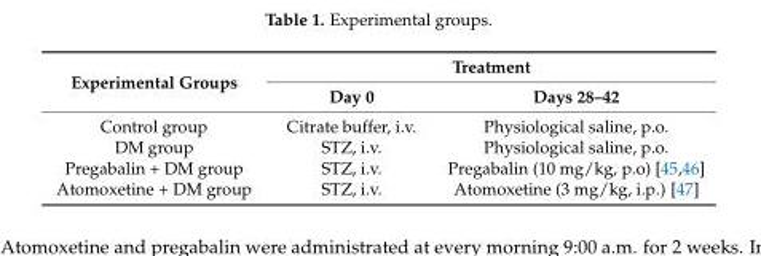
<table><thead><tr><td rowspan="2">Experimental Groups</td><td colspan="2">Treatment</td></tr><tr><td>Day 0</td><td>Days 28–42</td></tr></thead><tbody><tr><td>Control group</td><td>Citrate buffer, i.v.</td><td>Physiological saline, p.o.</td></tr><tr><td>DM group</td><td>STZ, i.v.</td><td>Physiological saline, p.o.</td></tr><tr><td>Pregabalin + DM group</td><td>STZ, i.v.</td><td>Pregabalin (10 mg/kg, p.o) [45,46]</td></tr><tr><td>Atomoxetine + DM group</td><td>STZ, i.v.</td><td>Atomoxetine (3 mg/kg, i.p.) [47]</td></tr></tbody></table>